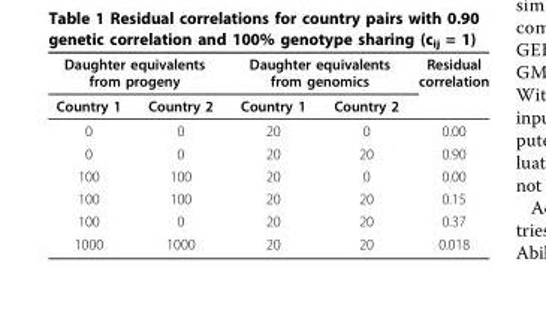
<table><thead><tr><td colspan="2">Daughter equivalents from progeny</td><td colspan="2">Daughter equivalents from genomics</td><td rowspan="2">Residual correlation</td></tr><tr><td>Country 1</td><td>Country 2</td><td>Country 1</td><td>Country 2</td></tr></thead><tbody><tr><td>0</td><td>0</td><td>20</td><td>0</td><td>0.00</td></tr><tr><td>0</td><td>0</td><td>20</td><td>20</td><td>0.90</td></tr><tr><td>100</td><td>100</td><td>20</td><td>0</td><td>0.00</td></tr><tr><td>100</td><td>100</td><td>20</td><td>20</td><td>0.15</td></tr><tr><td>100</td><td>0</td><td>20</td><td>20</td><td>0.37</td></tr><tr><td>1000</td><td>1000</td><td>20</td><td>20</td><td>0.018</td></tr></tbody></table>